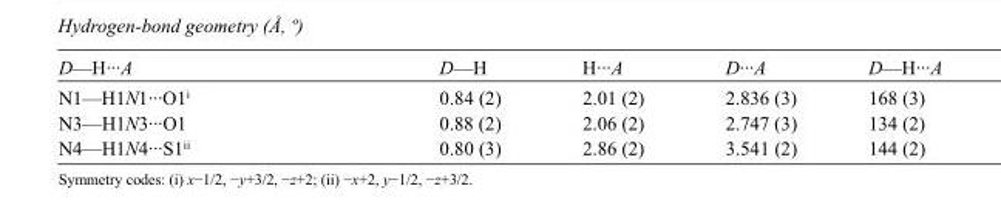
<table><tbody><tr><td>D—H···A</td><td>D—H</td><td>H···A</td><td>D···A</td><td>D—H···A</td></tr><tr><td>N1—H1N1···O1<sup>i</sup></td><td>0.84 (2)</td><td>2.01 (2)</td><td>2.836 (3)</td><td>168 (3)</td></tr><tr><td>N3—H1N3···O1</td><td>0.88 (2)</td><td>2.06 (2)</td><td>2.747 (3)</td><td>134 (2)</td></tr><tr><td>N4—H1N4···S1<sup>ii</sup></td><td>0.80 (3)</td><td>2.86 (2)</td><td>3.541 (2)</td><td>144 (2)</td></tr></tbody></table>